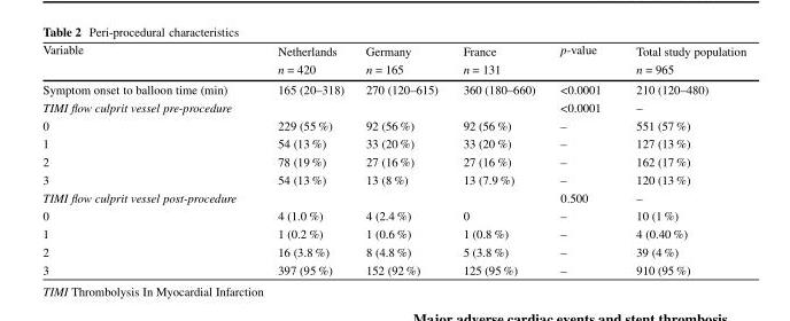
<table><thead><tr><td rowspan="2">Variable</td><td rowspan="2">Netherlands n = 420</td><td rowspan="2">Germany n = 165</td><td rowspan="2">France n = 131</td><td rowspan="2">p-value</td><td rowspan="2">Total study population n = 965</td></tr><tr></tr></thead><tbody><tr><td>Symptom onset to balloon time (min)</td><td>165 (20–318)</td><td>270 (120–615)</td><td>360 (180–660)</td><td>&lt;0.0001</td><td>210 (120–480)</td></tr><tr><td colspan="4">TIMI flow culprit vessel pre-procedure</td><td>&lt;0.0001</td><td>–</td></tr><tr><td>0</td><td>229 (55 %)</td><td>92 (56 %)</td><td>92 (56 %)</td><td>–</td><td>551 (57 %)</td></tr><tr><td>1</td><td>54 (13 %)</td><td>33 (20 %)</td><td>33 (20 %)</td><td>–</td><td>127 (13 %)</td></tr><tr><td>2</td><td>78 (19 %)</td><td>27 (16 %)</td><td>27 (16 %)</td><td>–</td><td>162 (17 %)</td></tr><tr><td>3</td><td>54 (13 %)</td><td>13 (8 %)</td><td>13 (7.9 %)</td><td>–</td><td>120 (13 %)</td></tr><tr><td colspan="4">TIMI flow culprit vessel post-procedure</td><td>0.500</td><td>–</td></tr><tr><td>0</td><td>4 (1.0 %)</td><td>4 (2.4 %)</td><td>0</td><td>–</td><td>10 (1 %)</td></tr><tr><td>1</td><td>1 (0.2 %)</td><td>1 (0.6 %)</td><td>1 (0.8 %)</td><td>–</td><td>4 (0.40 %)</td></tr><tr><td>2</td><td>16 (3.8 %)</td><td>8 (4.8 %)</td><td>5 (3.8 %)</td><td>–</td><td>39 (4 %)</td></tr><tr><td>3</td><td>397 (95 %)</td><td>152 (92 %)</td><td>125 (95 %)</td><td>–</td><td>910 (95 %)</td></tr></tbody></table>